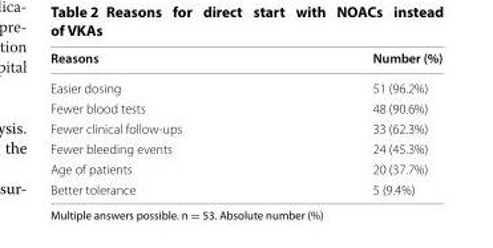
<table><thead><tr><td>Reasons</td><td>Number (%)</td></tr></thead><tbody><tr><td>Easier dosing</td><td>51 (96.2%)</td></tr><tr><td>Fewer blood tests</td><td>48 (90.6%)</td></tr><tr><td>Fewer clinical follow-ups</td><td>33 (62.3%)</td></tr><tr><td>Fewer bleeding events</td><td>24 (45.3%)</td></tr><tr><td>Age of patients</td><td>20 (37.7%)</td></tr><tr><td>Better tolerance</td><td>5 (9.4%)</td></tr></tbody></table>